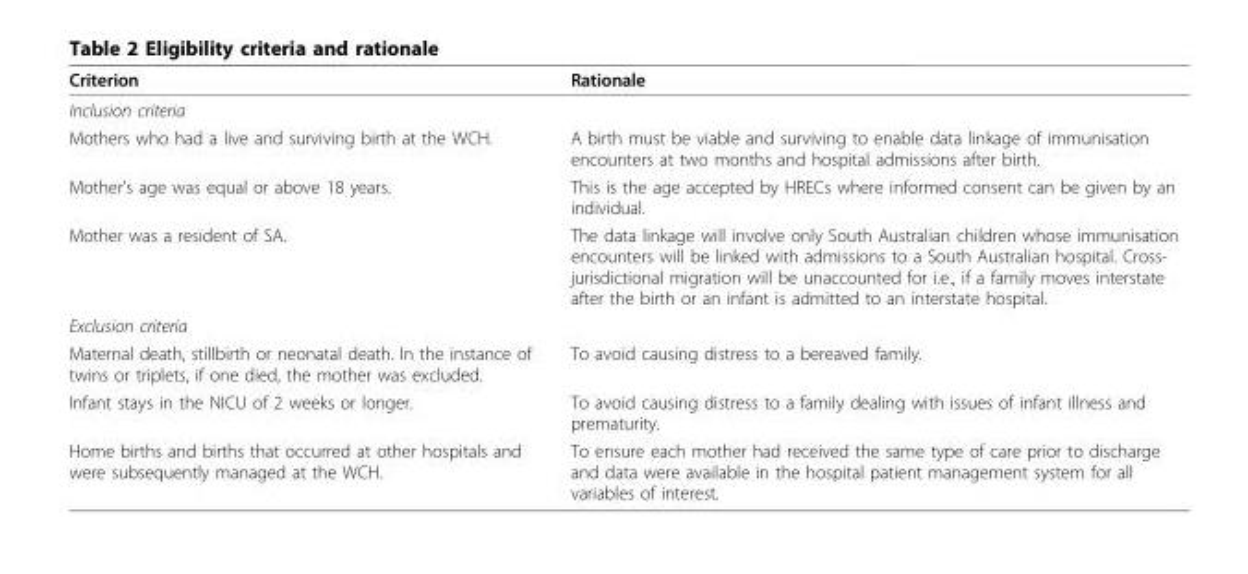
<table><thead><tr><td>Criterion</td><td>Rationale</td></tr></thead><tbody><tr><td colspan="2">Inclusion criteria</td></tr><tr><td>Mothers who had a live and surviving birth at the WCH.</td><td>A birth must be viable and surviving to enable data linkage of immunisation encounters at two months and hospital admissions after birth.</td></tr><tr><td>Mother’s age was equal or above 18 years.</td><td>This is the age accepted by HRECs where informed consent can be given by an individual.</td></tr><tr><td>Mother was a resident of SA.</td><td>The data linkage will involve only South Australian children whose immunisation encounters will be linked with admissions to a South Australian hospital. Cross- jurisdictional migration will be unaccounted for i.e., if a family moves interstate after the birth or an infant is admitted to an interstate hospital.</td></tr><tr><td colspan="2">Exclusion criteria</td></tr><tr><td>Maternal death, stillbirth or neonatal death. In the instance of twins or triplets, if one died, the mother was excluded.</td><td>To avoid causing distress to a bereaved family.</td></tr><tr><td>Infant stays in the NICU of 2 weeks or longer.</td><td>To avoid causing distress to a family dealing with issues of infant illness and prematurity.</td></tr><tr><td>Home births and births that occurred at other hospitals and were subsequently managed at the WCH.</td><td>To ensure each mother had received the same type of care prior to discharge and data were available in the hospital patient management system for all variables of interest.</td></tr></tbody></table>